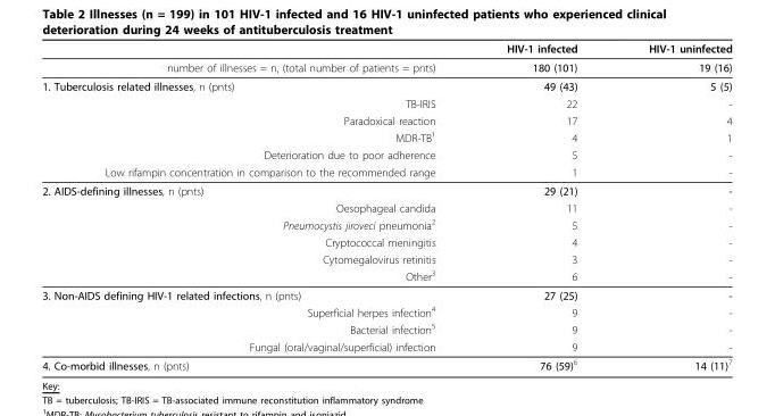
<table><thead><tr><td></td><td>HIV-1 infected</td><td>HIV-1 uninfected</td></tr></thead><tbody><tr><td>number of illnesses = n, (total number of patients = pnts)</td><td>180 (101)</td><td>19 (16)</td></tr><tr><td>1. Tuberculosis related illnesses, n (pnts)</td><td>49 (43)</td><td>5 (5)</td></tr><tr><td>TB-IRIS</td><td>22</td><td>-</td></tr><tr><td>Paradoxical reaction</td><td>17</td><td>4</td></tr><tr><td>MDR-TB<sup>1</sup></td><td>4</td><td>1</td></tr><tr><td>Deterioration due to poor adherence</td><td>5</td><td>-</td></tr><tr><td>Low rifampin concentration in comparison to the recommended range</td><td>1</td><td>-</td></tr><tr><td>2. AIDS-defining illnesses, n (pnts)</td><td>29 (21)</td><td>-</td></tr><tr><td>Oesophageal candida</td><td>11</td><td>-</td></tr><tr><td>Pneumocystis jiroveci pneumonia<sup>2</sup></td><td>5</td><td>-</td></tr><tr><td>Cryptococcal meningitis</td><td>4</td><td>-</td></tr><tr><td>Cytomegalovirus retinitis</td><td>3</td><td>-</td></tr><tr><td>Other<sup>3</sup></td><td>6</td><td>-</td></tr><tr><td>3. Non-AIDS defining HIV-1 related infections, n (pnts)</td><td>27 (25)</td><td>-</td></tr><tr><td>Superficial herpes infection<sup>4</sup></td><td>9</td><td>-</td></tr><tr><td>Bacterial infection<sup>5</sup></td><td>9</td><td>-</td></tr><tr><td>Fungal (oral/vaginal/superficial) infection</td><td>9</td><td>-</td></tr><tr><td>4. Co-morbid illnesses, n (pnts)</td><td>76 (59)<sup>6</sup></td><td>14 (11)<sup>7</sup></td></tr></tbody></table>